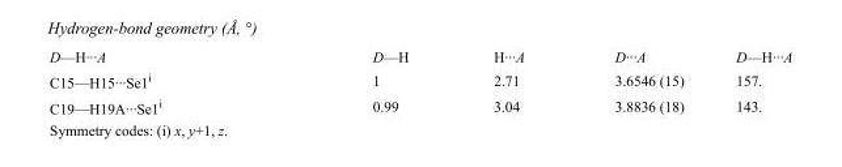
<table><tbody><tr><td>D—H···A</td><td>D—H</td><td>H···A</td><td>D···A</td><td>D—H···A</td></tr><tr><td>C15—H15···Se1<sup>i</sup></td><td>1</td><td>2.71</td><td>3.6546 (15)</td><td>157.</td></tr><tr><td>C19—H19A···Se1<sup>i</sup></td><td>0.99</td><td>3.04</td><td>3.8836 (18)</td><td>143.</td></tr></tbody></table>